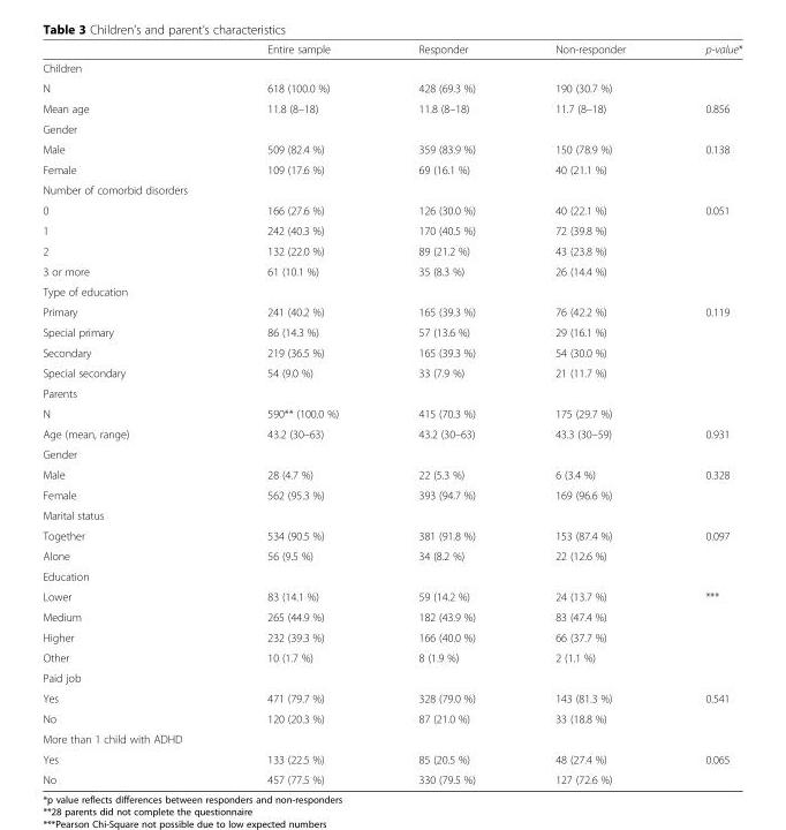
<table><thead><tr><td></td><td>Entire sample</td><td>Responder</td><td>Non-responder</td><td>p-value*</td></tr></thead><tbody><tr><td colspan="5">Children</td></tr><tr><td>N</td><td>618 (100.0 %)</td><td>428 (69.3 %)</td><td>190 (30.7 %)</td><td></td></tr><tr><td>Mean age</td><td>11.8 (8–18)</td><td>11.8 (8–18)</td><td>11.7 (8–18)</td><td>0.856</td></tr><tr><td colspan="5">Gender</td></tr><tr><td>Male</td><td>509 (82.4 %)</td><td>359 (83.9 %)</td><td>150 (78.9 %)</td><td>0.138</td></tr><tr><td>Female</td><td>109 (17.6 %)</td><td>69 (16.1 %)</td><td>40 (21.1 %)</td><td></td></tr><tr><td colspan="5">Number of comorbid disorders</td></tr><tr><td>0</td><td>166 (27.6 %)</td><td>126 (30.0 %)</td><td>40 (22.1 %)</td><td>0.051</td></tr><tr><td>1</td><td>242 (40.3 %)</td><td>170 (40.5 %)</td><td>72 (39.8 %)</td><td></td></tr><tr><td>2</td><td>132 (22.0 %)</td><td>89 (21.2 %)</td><td>43 (23.8 %)</td><td></td></tr><tr><td>3 or more</td><td>61 (10.1 %)</td><td>35 (8.3 %)</td><td>26 (14.4 %)</td><td></td></tr><tr><td colspan="5">Type of education</td></tr><tr><td>Primary</td><td>241 (40.2 %)</td><td>165 (39.3 %)</td><td>76 (42.2 %)</td><td>0.119</td></tr><tr><td>Special primary</td><td>86 (14.3 %)</td><td>57 (13.6 %)</td><td>29 (16.1 %)</td><td></td></tr><tr><td>Secondary</td><td>219 (36.5 %)</td><td>165 (39.3 %)</td><td>54 (30.0 %)</td><td></td></tr><tr><td>Special secondary</td><td>54 (9.0 %)</td><td>33 (7.9 %)</td><td>21 (11.7 %)</td><td></td></tr><tr><td colspan="5">Parents</td></tr><tr><td>N</td><td>590** (100.0 %)</td><td>415 (70.3 %)</td><td>175 (29.7 %)</td><td></td></tr><tr><td>Age (mean, range)</td><td>43.2 (30–63)</td><td>43.2 (30–63)</td><td>43.3 (30–59)</td><td>0.931</td></tr><tr><td colspan="5">Gender</td></tr><tr><td>Male</td><td>28 (4.7 %)</td><td>22 (5.3 %)</td><td>6 (3.4 %)</td><td>0.328</td></tr><tr><td>Female</td><td>562 (95.3 %)</td><td>393 (94.7 %)</td><td>169 (96.6 %)</td><td></td></tr><tr><td colspan="5">Marital status</td></tr><tr><td>Together</td><td>534 (90.5 %)</td><td>381 (91.8 %)</td><td>153 (87.4 %)</td><td>0.097</td></tr><tr><td>Alone</td><td>56 (9.5 %)</td><td>34 (8.2 %)</td><td>22 (12.6 %)</td><td></td></tr><tr><td colspan="5">Education</td></tr><tr><td>Lower</td><td>83 (14.1 %)</td><td>59 (14.2 %)</td><td>24 (13.7 %)</td><td>***</td></tr><tr><td>Medium</td><td>265 (44.9 %)</td><td>182 (43.9 %)</td><td>83 (47.4 %)</td><td></td></tr><tr><td>Higher</td><td>232 (39.3 %)</td><td>166 (40.0 %)</td><td>66 (37.7 %)</td><td></td></tr><tr><td>Other</td><td>10 (1.7 %)</td><td>8 (1.9 %)</td><td>2 (1.1 %)</td><td></td></tr><tr><td colspan="5">Paid job</td></tr><tr><td>Yes</td><td>471 (79.7 %)</td><td>328 (79.0 %)</td><td>143 (81.3 %)</td><td>0.541</td></tr><tr><td>No</td><td>120 (20.3 %)</td><td>87 (21.0 %)</td><td>33 (18.8 %)</td><td></td></tr><tr><td colspan="5">More than 1 child with ADHD</td></tr><tr><td>Yes</td><td>133 (22.5 %)</td><td>85 (20.5 %)</td><td>48 (27.4 %)</td><td>0.065</td></tr><tr><td>No</td><td>457 (77.5 %)</td><td>330 (79.5 %)</td><td>127 (72.6 %)</td><td></td></tr></tbody></table>